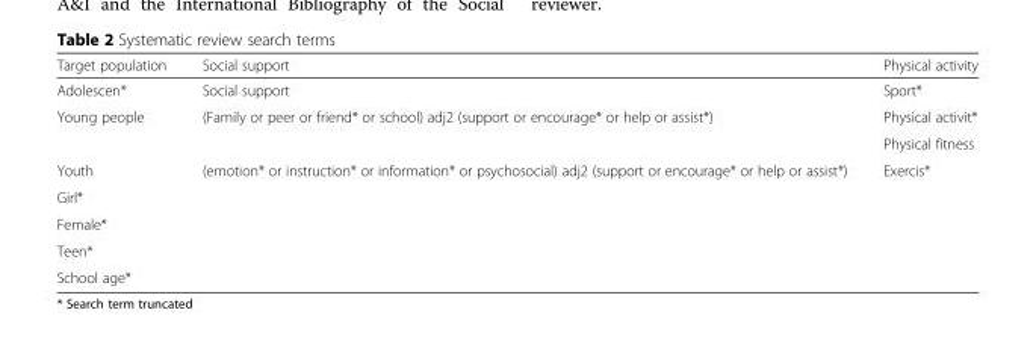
<table><thead><tr><td>Target population</td><td>Social support</td><td>Physical activity</td></tr></thead><tbody><tr><td>Adolescen*</td><td>Social support</td><td>Sport*</td></tr><tr><td rowspan="2">Young people</td><td rowspan="2">(Family or peer or friend* or school) adj2 (support or encourage* or help or assist*)</td><td>Physical activit*</td></tr><tr><td>Physical fitness</td></tr><tr><td>Youth</td><td rowspan="5">(emotion* or instruction* or information* or psychosocial) adj2 (support or encourage* or help or assist*)</td><td rowspan="5">Exercis*</td></tr><tr><td>Girl*</td></tr><tr><td>Female*</td></tr><tr><td>Teen*</td></tr><tr><td>School age*</td></tr></tbody></table>